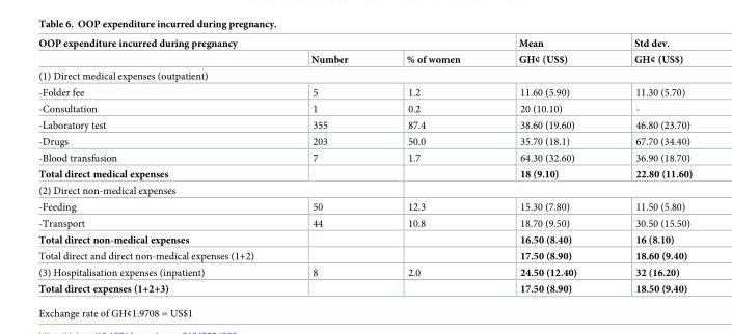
<table><thead><tr><td colspan="3">OOP expenditure incurred during pregnancy</td><td rowspan="2">Mean GH¢ (US$)</td><td rowspan="2">Std dev. GH¢ (US$)</td></tr><tr><td></td><td>Number</td><td>% of women</td></tr></thead><tbody><tr><td colspan="5">(1) Direct medical expenses (outpatient)</td></tr><tr><td>-Folder fee</td><td>5</td><td>1.2</td><td>11.60 (5.90)</td><td>11.30 (5.70)</td></tr><tr><td>-Consultation</td><td>1</td><td>0.2</td><td>20 (10.10)</td><td>-</td></tr><tr><td>-Laboratory test</td><td>355</td><td>87.4</td><td>38.60 (19.60)</td><td>46.80 (23.70)</td></tr><tr><td>-Drugs</td><td>203</td><td>50.0</td><td>35.70 (18.1)</td><td>67.70 (34.40)</td></tr><tr><td>-Blood transfusion</td><td>7</td><td>1.7</td><td>64.30 (32.60)</td><td>36.90 (18.70)</td></tr><tr><td>Total direct medical expenses</td><td></td><td></td><td>18 (9.10)</td><td>22.80 (11.60)</td></tr><tr><td colspan="5">(2) Direct non-medical expenses</td></tr><tr><td>-Feeding</td><td>50</td><td>12.3</td><td>15.30 (7.80)</td><td>11.50 (5.80)</td></tr><tr><td>-Transport</td><td>44</td><td>10.8</td><td>18.70 (9.50)</td><td>30.50 (15.50)</td></tr><tr><td>Total direct non-medical expenses</td><td></td><td></td><td>16.50 (8.40)</td><td>16 (8.10)</td></tr><tr><td>Total direct and direct non-medical expenses (1+2)</td><td></td><td></td><td>17.50 (8.90)</td><td>18.60 (9.40)</td></tr><tr><td>(3) Hospitalisation expenses (inpatient)</td><td>8</td><td>2.0</td><td>24.50 (12.40)</td><td>32 (16.20)</td></tr><tr><td>Total direct expenses (1+2+3)</td><td></td><td></td><td>17.50 (8.90)</td><td>18.50 (9.40)</td></tr></tbody></table>